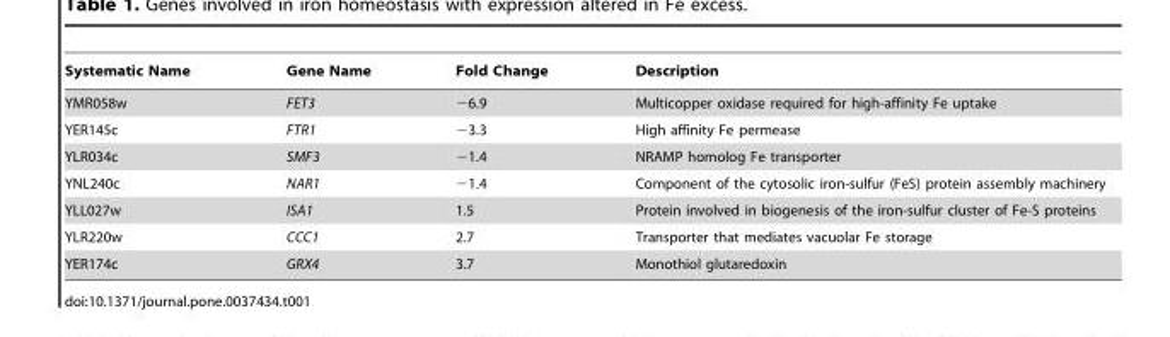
<table><thead><tr><td>Systematic Name</td><td>Gene Name</td><td>Fold Change</td><td>Description</td></tr></thead><tbody><tr><td>YMR058w</td><td>FET3</td><td>−6.9</td><td>Multicopper oxidase required for high-affinity Fe uptake</td></tr><tr><td>YER145c</td><td>FTR1</td><td>−3.3</td><td>High affinity Fe permease</td></tr><tr><td>YLR034c</td><td>SMF3</td><td>−1.4</td><td>NRAMP homolog Fe transporter</td></tr><tr><td>YNL240c</td><td>NAR1</td><td>−1.4</td><td>Component of the cytosolic iron-sulfur (FeS) protein assembly machinery</td></tr><tr><td>YLL027w</td><td>ISA1</td><td>1.5</td><td>Protein involved in biogenesis of the iron-sulfur cluster of Fe-S proteins</td></tr><tr><td>YLR220w</td><td>CCC1</td><td>2.7</td><td>Transporter that mediates vacuolar Fe storage</td></tr><tr><td>YER174c</td><td>GRX4</td><td>3.7</td><td>Monothiol glutaredoxin</td></tr></tbody></table>